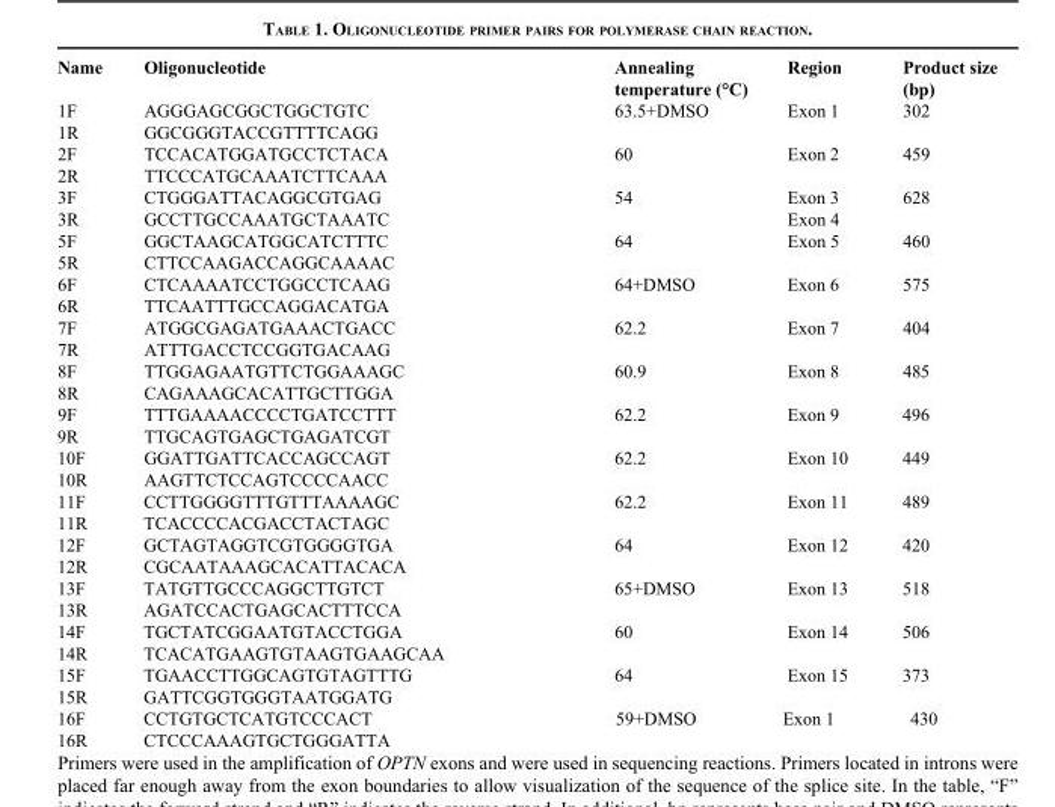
<table><tbody><tr><td>Name</td><td>Oligonucleotide</td><td>Annealing temperature (°C)</td><td>Region</td><td>Product size (bp)</td></tr><tr><td>1F</td><td>AGGGAGCGGCTGGCTGTC</td><td>63.5+DMSO</td><td>Exon 1</td><td>302</td></tr><tr><td>1R</td><td>GGCGGGTACCGTTTTCAGG</td><td></td><td></td><td></td></tr><tr><td>2F</td><td>TCCACATGGATGCCTCTACA</td><td>60</td><td>Exon 2</td><td>459</td></tr><tr><td>2R</td><td>TTCCCATGCAAATCTTCAAA</td><td></td><td></td><td></td></tr><tr><td>3F</td><td>CTGGGATTACAGGCGTGAG</td><td>54</td><td>Exon 3</td><td>628</td></tr><tr><td>3R</td><td>GCCTTGCCAAATGCTAAATC</td><td></td><td>Exon 4</td><td></td></tr><tr><td>5F</td><td>GGCTAAGCATGGCATCTTTC</td><td>64</td><td>Exon 5</td><td>460</td></tr><tr><td>5R</td><td>CTTCCAAGACCAGGCAAAAC</td><td></td><td></td><td></td></tr><tr><td>6F</td><td>CTCAAAATCCTGGCCTCAAG</td><td>64+DMSO</td><td>Exon 6</td><td>575</td></tr><tr><td>6R</td><td>TTCAATTTGCCAGGACATGA</td><td></td><td></td><td></td></tr><tr><td>7F</td><td>ATGGCGAGATGAAACTGACC</td><td>62.2</td><td>Exon 7</td><td>404</td></tr><tr><td>7R</td><td>ATTTGACCTCCGGTGACAAG</td><td></td><td></td><td></td></tr><tr><td>8F</td><td>TTGGAGAATGTTCTGGAAAGC</td><td>60.9</td><td>Exon 8</td><td>485</td></tr><tr><td>8R</td><td>CAGAAAGCACATTGCTTGGA</td><td></td><td></td><td></td></tr><tr><td>9F</td><td>TTTGAAAACCCCTGATCCTTT</td><td>62.2</td><td>Exon 9</td><td>496</td></tr><tr><td>9R</td><td>TTGCAGTGAGCTGAGATCGT</td><td></td><td></td><td></td></tr><tr><td>10F</td><td>GGATTGATTCACCAGCCAGT</td><td>62.2</td><td>Exon 10</td><td>449</td></tr><tr><td>10R</td><td>AAGTTCTCCAGTCCCCAACC</td><td></td><td></td><td></td></tr><tr><td>11F</td><td>CCTTGGGGTTTGTTTAAAAGC</td><td>62.2</td><td>Exon 11</td><td>489</td></tr><tr><td>11R</td><td>TCACCCCACGACCTACTAGC</td><td></td><td></td><td></td></tr><tr><td>12F</td><td>GCTAGTAGGTCGTGGGGTGA</td><td>64</td><td>Exon 12</td><td>420</td></tr><tr><td>12R</td><td>CGCAATAAAGCACATTACACA</td><td></td><td></td><td></td></tr><tr><td>13F</td><td>TATGTTGCCCAGGCTTGTCT</td><td>65+DMSO</td><td>Exon 13</td><td>518</td></tr><tr><td>13R</td><td>AGATCCACTGAGCACTTTCCA</td><td></td><td></td><td></td></tr><tr><td>14F</td><td>TGCTATCGGAATGTACCTGGA</td><td>60</td><td>Exon 14</td><td>506</td></tr><tr><td>14R</td><td>TCACATGAAGTGTAAGTGAAGCAA</td><td></td><td></td><td></td></tr><tr><td>15F</td><td>TGAACCTTGGCAGTGTAGTTTG</td><td>64</td><td>Exon 15</td><td>373</td></tr><tr><td>15R</td><td>GATTCGGTGGGTAATGGATG</td><td></td><td></td><td></td></tr><tr><td>16F</td><td>CCTGTGCTCATGTCCCACT</td><td>59+DMSO</td><td>Exon 1</td><td>430</td></tr><tr><td>16R</td><td>CTCCCAAAGTGCTGGGATTA</td><td></td><td></td><td></td></tr></tbody></table>